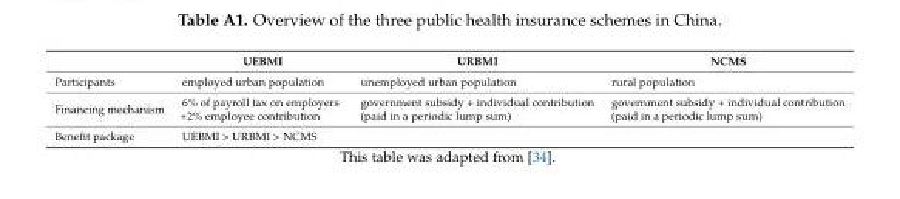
<table><thead><tr><td></td><td>UEBMI</td><td>URBMI</td><td>NCMS</td></tr></thead><tbody><tr><td>Participants</td><td>employed urban population</td><td>unemployed urban population</td><td>rural population</td></tr><tr><td>Financing mechanism</td><td>6% of payroll tax on employers +2% employee contribution</td><td>government subsidy + individual contribution (paid in a periodic lump sum)</td><td>government subsidy + individual contribution (paid in a periodic lump sum)</td></tr><tr><td>Benefit package</td><td colspan="3">UEBMI &gt; URBMI &gt; NCMS</td></tr></tbody></table>